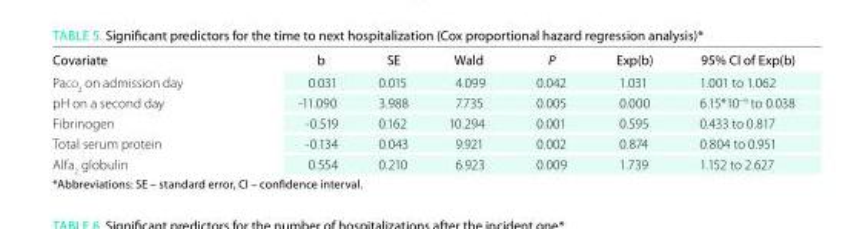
<table><thead><tr><td>Covariate</td><td>b</td><td>SE</td><td>Wald</td><td>P</td><td>Exp(b)</td><td>95% CI of Exp(b)</td></tr></thead><tbody><tr><td>Paco<sub>2</sub> on admission day</td><td>0.031</td><td>0.015</td><td>4.099</td><td>0.042</td><td>1.031</td><td>1.001 to 1.062</td></tr><tr><td>pH on a second day</td><td>-11.090</td><td>3.988</td><td>7.735</td><td>0.005</td><td>0.000</td><td>6.15*10<sup>−9</sup> to 0.038</td></tr><tr><td>Fibrinogen</td><td>-0.519</td><td>0.162</td><td>10.294</td><td>0.001</td><td>0.595</td><td>0.433 to 0.817</td></tr><tr><td>Total serum protein</td><td>-0.134</td><td>0.043</td><td>9.921</td><td>0.002</td><td>0.874</td><td>0.804 to 0.951</td></tr><tr><td>Alfa<sub>2</sub> globulin</td><td>0.554</td><td>0.210</td><td>6.923</td><td>0.009</td><td>1.739</td><td>1.152 to 2.627</td></tr></tbody></table>